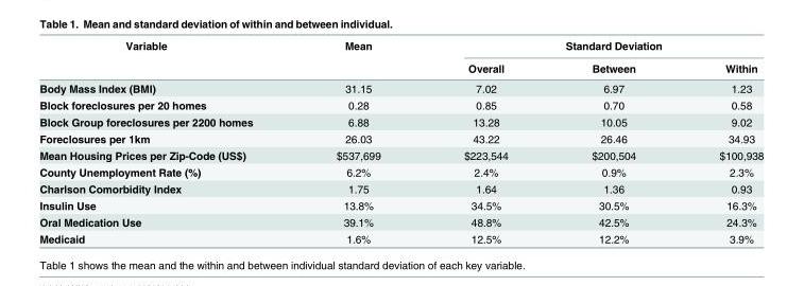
<table><thead><tr><td rowspan="2">Variable</td><td rowspan="2">Mean</td><td colspan="3">Standard Deviation</td></tr><tr><td>Overall</td><td>Between</td><td>Within</td></tr></thead><tbody><tr><td>Body Mass Index (BMI)</td><td>31.15</td><td>7.02</td><td>6.97</td><td>1.23</td></tr><tr><td>Block foreclosures per 20 homes</td><td>0.28</td><td>0.85</td><td>0.70</td><td>0.58</td></tr><tr><td>Block Group foreclosures per 2200 homes</td><td>6.88</td><td>13.28</td><td>10.05</td><td>9.02</td></tr><tr><td>Foreclosures per 1km</td><td>26.03</td><td>43.22</td><td>26.46</td><td>34.93</td></tr><tr><td>Mean Housing Prices per Zip-Code (US$)</td><td>$537,699</td><td>$223,544</td><td>$200,504</td><td>$100,938</td></tr><tr><td>County Unemployment Rate (%)</td><td>6.2%</td><td>2.4%</td><td>0.9%</td><td>2.3%</td></tr><tr><td>Charlson Comorbidity Index</td><td>1.75</td><td>1.64</td><td>1.36</td><td>0.93</td></tr><tr><td>Insulin Use</td><td>13.8%</td><td>34.5%</td><td>30.5%</td><td>16.3%</td></tr><tr><td>Oral Medication Use</td><td>39.1%</td><td>48.8%</td><td>42.5%</td><td>24.3%</td></tr><tr><td>Medicaid</td><td>1.6%</td><td>12.5%</td><td>12.2%</td><td>3.9%</td></tr></tbody></table>